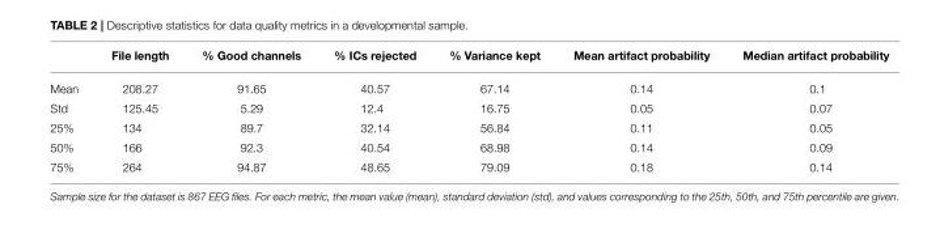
<table><thead><tr><td></td><td>File length</td><td>% Good channels</td><td>% ICs rejected</td><td>% Variance kept</td><td>Mean artifact probability</td><td>Median artifact probability</td></tr></thead><tbody><tr><td>Mean</td><td>208.27</td><td>91.65</td><td>40.57</td><td>67.14</td><td>0.14</td><td>0.1</td></tr><tr><td>Std</td><td>125.45</td><td>5.29</td><td>12.4</td><td>16.75</td><td>0.05</td><td>0.07</td></tr><tr><td>25%</td><td>134</td><td>89.7</td><td>32.14</td><td>56.84</td><td>0.11</td><td>0.05</td></tr><tr><td>50%</td><td>166</td><td>92.3</td><td>40.54</td><td>68.98</td><td>0.14</td><td>0.09</td></tr><tr><td>75%</td><td>264</td><td>94.87</td><td>48.65</td><td>79.09</td><td>0.18</td><td>0.14</td></tr></tbody></table>